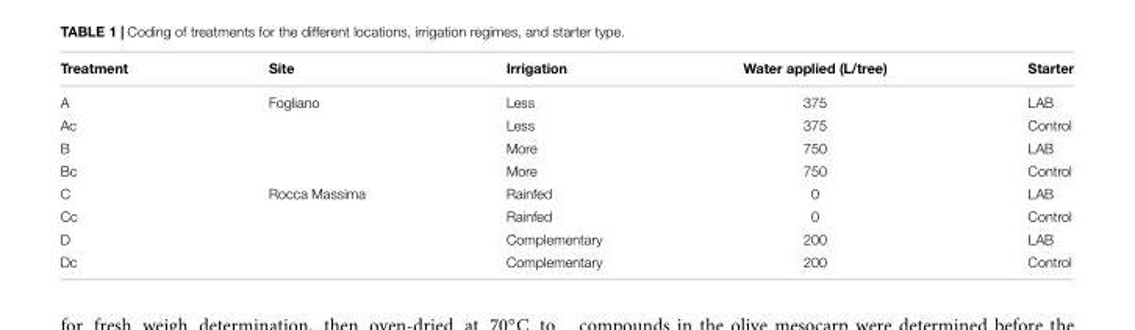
<table><thead><tr><td>Treatment</td><td>Site</td><td>Irrigation</td><td>Water applied (L/tree)</td><td>Starter</td></tr></thead><tbody><tr><td>A</td><td>Fogliano</td><td>Less</td><td>375</td><td>LAB</td></tr><tr><td>Ac</td><td></td><td>Less</td><td>375</td><td>Control</td></tr><tr><td>B</td><td></td><td>More</td><td>750</td><td>LAB</td></tr><tr><td>Bc</td><td></td><td>More</td><td>750</td><td>Control</td></tr><tr><td>C</td><td>Rocca Massima</td><td>Rainfed</td><td>0</td><td>LAB</td></tr><tr><td>Cc</td><td></td><td>Rainfed</td><td>0</td><td>Control</td></tr><tr><td>D</td><td></td><td>Complementary</td><td>200</td><td>LAB</td></tr><tr><td>Dc</td><td></td><td>Complementary</td><td>200</td><td>Control</td></tr></tbody></table>